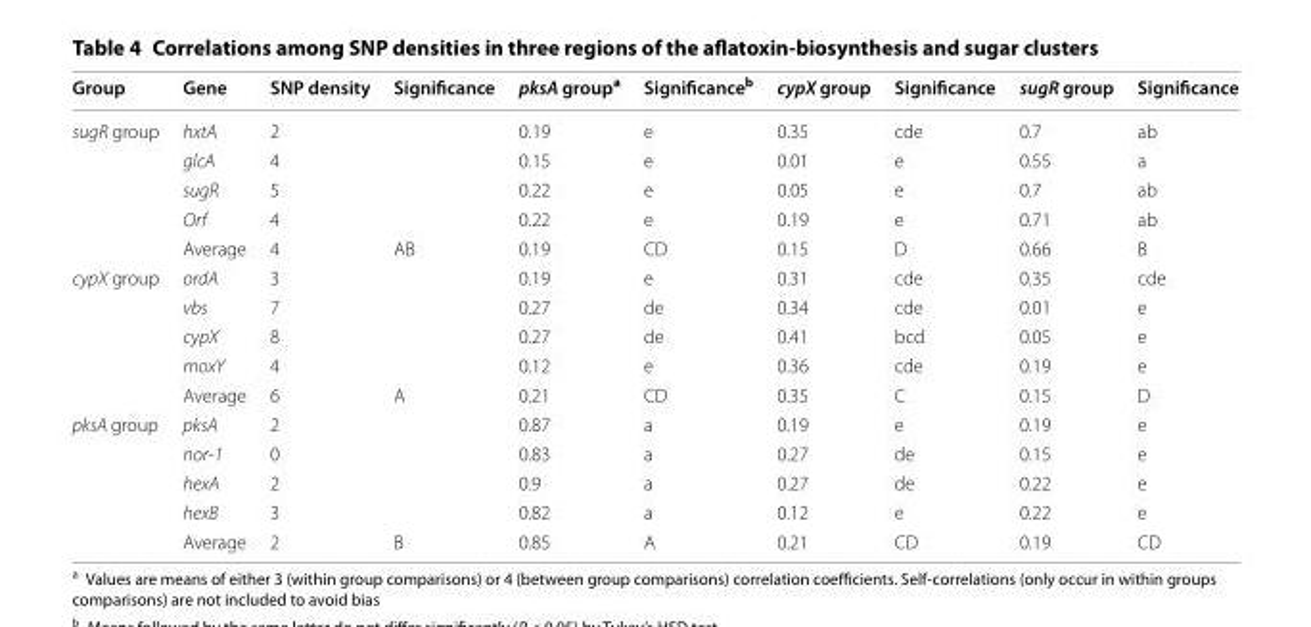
<table><thead><tr><td>Group</td><td>Gene</td><td>SNP density</td><td>Significance</td><td>pksA group<sup>a</sup></td><td>Significance<sup>b</sup></td><td>cypX group</td><td>Significance</td><td>sugR group</td><td>Significance</td></tr></thead><tbody><tr><td rowspan="5">sugR group</td><td>hxtA</td><td>2</td><td></td><td>0.19</td><td>e</td><td>0.35</td><td>cde</td><td>0.7</td><td>ab</td></tr><tr><td>glcA</td><td>4</td><td></td><td>0.15</td><td>e</td><td>0.01</td><td>e</td><td>0.55</td><td>a</td></tr><tr><td>sugR</td><td>5</td><td></td><td>0.22</td><td>e</td><td>0.05</td><td>e</td><td>0.7</td><td>ab</td></tr><tr><td>Orf</td><td>4</td><td></td><td>0.22</td><td>e</td><td>0.19</td><td>e</td><td>0.71</td><td>ab</td></tr><tr><td>Average</td><td>4</td><td>AB</td><td>0.19</td><td>CD</td><td>0.15</td><td>D</td><td>0.66</td><td>B</td></tr><tr><td rowspan="5">cypX group</td><td>ordA</td><td>3</td><td></td><td>0.19</td><td>e</td><td>0.31</td><td>cde</td><td>0.35</td><td>cde</td></tr><tr><td>vbs</td><td>7</td><td></td><td>0.27</td><td>de</td><td>0.34</td><td>cde</td><td>0.01</td><td>e</td></tr><tr><td>cypX</td><td>8</td><td></td><td>0.27</td><td>de</td><td>0.41</td><td>bcd</td><td>0.05</td><td>e</td></tr><tr><td>moxY</td><td>4</td><td></td><td>0.12</td><td>e</td><td>0.36</td><td>cde</td><td>0.19</td><td>e</td></tr><tr><td>Average</td><td>6</td><td>A</td><td>0.21</td><td>CD</td><td>0.35</td><td>C</td><td>0.15</td><td>D</td></tr><tr><td rowspan="5">pksA group</td><td>pksA</td><td>2</td><td></td><td>0.87</td><td>a</td><td>0.19</td><td>e</td><td>0.19</td><td>e</td></tr><tr><td>nor-1</td><td>0</td><td></td><td>0.83</td><td>a</td><td>0.27</td><td>de</td><td>0.15</td><td>e</td></tr><tr><td>hexA</td><td>2</td><td></td><td>0.9</td><td>a</td><td>0.27</td><td>de</td><td>0.22</td><td>e</td></tr><tr><td>hexB</td><td>3</td><td></td><td>0.82</td><td>a</td><td>0.12</td><td>e</td><td>0.22</td><td>e</td></tr><tr><td>Average</td><td>2</td><td>B</td><td>0.85</td><td>A</td><td>0.21</td><td>CD</td><td>0.19</td><td>CD</td></tr></tbody></table>